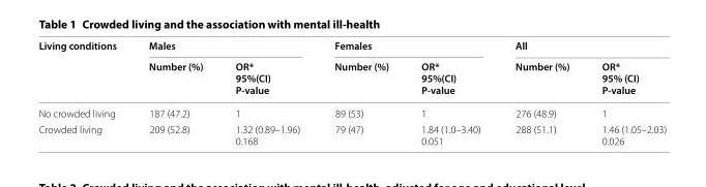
<table><thead><tr><td rowspan="2">Living conditions</td><td colspan="2">Males</td><td colspan="2">Females</td><td colspan="2">All</td></tr><tr><td>Number (%)</td><td>OR* 95%(CI) P-value</td><td>Number (%)</td><td>OR* 95%(CI) P-value</td><td>Number (%)</td><td>OR* 95% (CI) P-value</td></tr></thead><tbody><tr><td>No crowded living</td><td>187 (47.2)</td><td>1</td><td>89 (53)</td><td>1</td><td>276 (48.9)</td><td>1</td></tr><tr><td>Crowded living</td><td>209 (52.8)</td><td>1.32 (0.89–1.96) 0.168</td><td>79 (47)</td><td>1.84 (1.0–3.40) 0.051</td><td>288 (51.1)</td><td>1.46 (1.05–2.03) 0.026</td></tr></tbody></table>